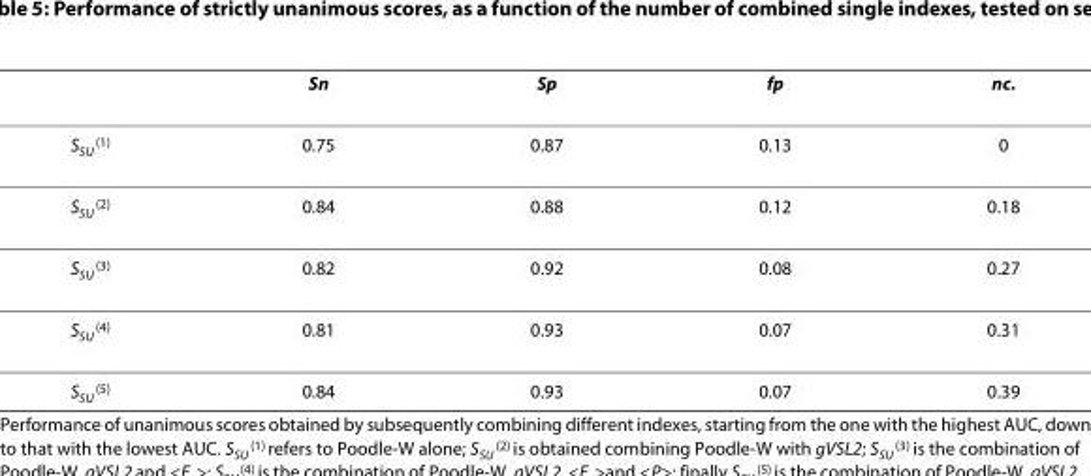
<table><thead><tr><td></td><td>S<sub>n</sub></td><td>S<sub>p</sub></td><td>f<sub>p</sub></td><td>nc.</td></tr></thead><tbody><tr><td>S<sub>SU</sub> <sup>(1)</sup></td><td>0.75</td><td>0.87</td><td>0.13</td><td>0</td></tr><tr><td>S<sub>SU</sub> <sup>(2)</sup></td><td>0.84</td><td>0.88</td><td>0.12</td><td>0.18</td></tr><tr><td>S<sub>SU</sub> <sup>(3)</sup></td><td>0.82</td><td>0.92</td><td>0.08</td><td>0.27</td></tr><tr><td>S<sub>SU</sub> <sup>(4)</sup></td><td>0.81</td><td>0.93</td><td>0.07</td><td>0.31</td></tr><tr><td>S<sub>SU</sub> <sup>(5)</sup></td><td>0.84</td><td>0.93</td><td>0.07</td><td>0.39</td></tr></tbody></table>